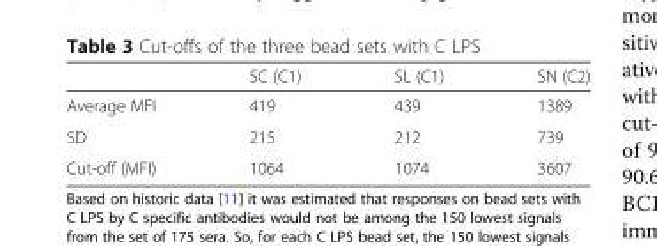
<table><thead><tr><td></td><td>SC (C1)</td><td>SL (C1)</td><td>SN (C2)</td></tr></thead><tbody><tr><td>Average MFI</td><td>419</td><td>439</td><td>1389</td></tr><tr><td>SD</td><td>215</td><td>212</td><td>739</td></tr><tr><td>Cut-off (MFI)</td><td>1064</td><td>1074</td><td>3607</td></tr></tbody></table>